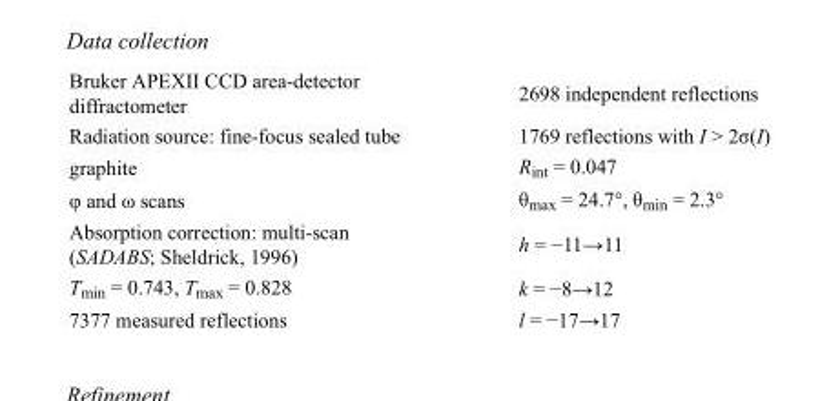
<table><tbody><tr><td>Bruker APEXII CCD area-detector diffractometer</td><td>2698 independent reflections</td></tr><tr><td>Radiation source: fine-focus sealed tube</td><td>1769 reflections with I &gt; 2σ(I)</td></tr><tr><td>graphite</td><td>R<sub>int</sub> = 0.047</td></tr><tr><td>φ and ω scans</td><td>θ<sub>max</sub> = 24.7°, θ<sub>min</sub> = 2.3°</td></tr><tr><td>Absorption correction: multi-scan (SADABS; Sheldrick, 1996)</td><td>h = −11→11</td></tr><tr><td>T<sub>min</sub> = 0.743, T<sub>max</sub> = 0.828</td><td>k = −8→12</td></tr><tr><td>7377 measured reflections</td><td>l = −17→17</td></tr></tbody></table>